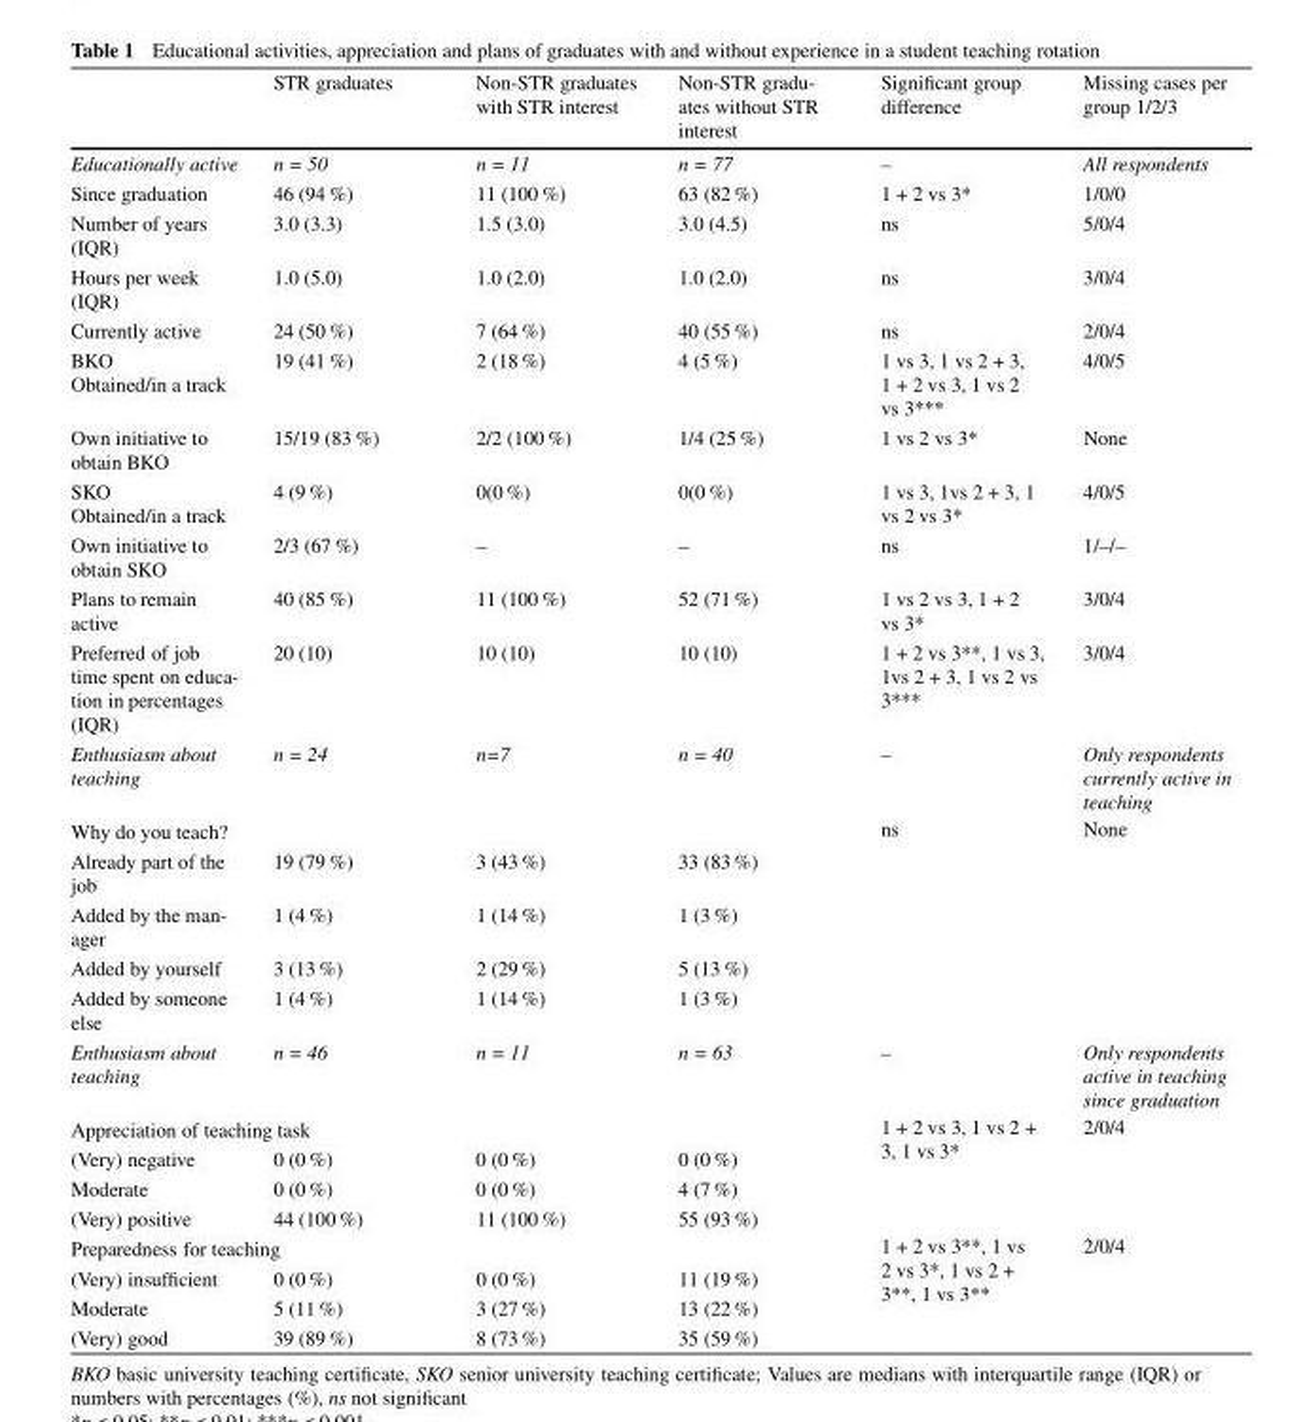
<table><thead><tr><td></td><td>STR graduates</td><td>Non-STR graduates with STR interest</td><td>Non-STR gradu- ates without STR interest</td><td>Significant group difference</td><td>Missing cases per group 1/2/3</td></tr></thead><tbody><tr><td>Educationally active</td><td>n = 50</td><td>n = 11</td><td>n = 77</td><td>–</td><td>All respondents</td></tr><tr><td>Since graduation</td><td>46 (94 %)</td><td>11 (100 %)</td><td>63 (82 %)</td><td>1 + 2 vs 3*</td><td>1/0/0</td></tr><tr><td>Number of years (IQR)</td><td>3.0 (3.3)</td><td>1.5 (3.0)</td><td>3.0 (4.5)</td><td>ns</td><td>5/0/4</td></tr><tr><td>Hours per week (IQR)</td><td>1.0 (5.0)</td><td>1.0 (2.0)</td><td>1.0 (2.0)</td><td>ns</td><td>3/0/4</td></tr><tr><td>Currently active</td><td>24 (50 %)</td><td>7 (64 %)</td><td>40 (55 %)</td><td>ns</td><td>2/0/4</td></tr><tr><td>BKO Obtained/in a track</td><td>19 (41 %)</td><td>2 (18 %)</td><td>4 (5 %)</td><td>1 vs 3, 1 vs 2 + 3, 1 + 2 vs 3, 1 vs 2 vs 3***</td><td>4/0/5</td></tr><tr><td>Own initiative to obtain BKO</td><td>15/19 (83 %)</td><td>2/2 (100 %)</td><td>1/4 (25 %)</td><td>1 vs 2 vs 3*</td><td>None</td></tr><tr><td>SKO Obtained/in a track</td><td>4 (9 %)</td><td>0(0 %)</td><td>0(0 %)</td><td>1 vs 3, 1vs 2 + 3, 1 vs 2 vs 3*</td><td>4/0/5</td></tr><tr><td>Own initiative to obtain SKO</td><td>2/3 (67 %)</td><td>–</td><td>–</td><td>ns</td><td>1/–/–</td></tr><tr><td>Plans to remain active</td><td>40 (85 %)</td><td>11 (100 %)</td><td>52 (71 %)</td><td>1 vs 2 vs 3, 1 + 2 vs 3*</td><td>3/0/4</td></tr><tr><td>Preferred of job time spent on educa- tion in percentages (IQR)</td><td>20 (10)</td><td>10 (10)</td><td>10 (10)</td><td>1 + 2 vs 3**, 1 vs 3, 1vs 2 + 3, 1 vs 2 vs 3***</td><td>3/0/4</td></tr><tr><td>Enthusiasm about teaching</td><td>n = 24</td><td>n=7</td><td>n = 40</td><td>–</td><td>Only respondents currently active in teaching</td></tr><tr><td colspan="4">Why do you teach?</td><td rowspan="5">ns</td><td rowspan="5">None</td></tr><tr><td>Already part of the job</td><td>19 (79 %)</td><td>3 (43 %)</td><td>33 (83 %)</td></tr><tr><td>Added by the man- ager</td><td>1 (4 %)</td><td>1 (14 %)</td><td>1 (3 %)</td></tr><tr><td>Added by yourself</td><td>3 (13 %)</td><td>2 (29 %)</td><td>5 (13 %)</td></tr><tr><td>Added by someone else</td><td>1 (4 %)</td><td>1 (14 %)</td><td>1 (3 %)</td></tr><tr><td>Enthusiasm about teaching</td><td>n = 46</td><td>n = 11</td><td>n = 63</td><td>–</td><td>Only respondents active in teaching since graduation</td></tr><tr><td colspan="4">Appreciation of teaching task</td><td rowspan="4">1 + 2 vs 3, 1 vs 2 + 3, 1 vs 3*</td><td rowspan="4">2/0/4</td></tr><tr><td>(Very) negative</td><td>0 (0 %)</td><td>0 (0 %)</td><td>0 (0 %)</td></tr><tr><td>Moderate</td><td>0 (0 %)</td><td>0 (0 %)</td><td>4 (7 %)</td></tr><tr><td>(Very) positive</td><td>44 (100 %)</td><td>11 (100 %)</td><td>55 (93 %)</td></tr><tr><td colspan="4">Preparedness for teaching</td><td rowspan="4">1 + 2 vs 3**, 1 vs 2 vs 3*, 1 vs 2 + 3**, 1 vs 3**</td><td rowspan="4">2/0/4</td></tr><tr><td>(Very) insufficient</td><td>0 (0 %)</td><td>0 (0 %)</td><td>11 (19 %)</td></tr><tr><td>Moderate</td><td>5 (11 %)</td><td>3 (27 %)</td><td>13 (22 %)</td></tr><tr><td>(Very) good</td><td>39 (89 %)</td><td>8 (73 %)</td><td>35 (59 %)</td></tr></tbody></table>